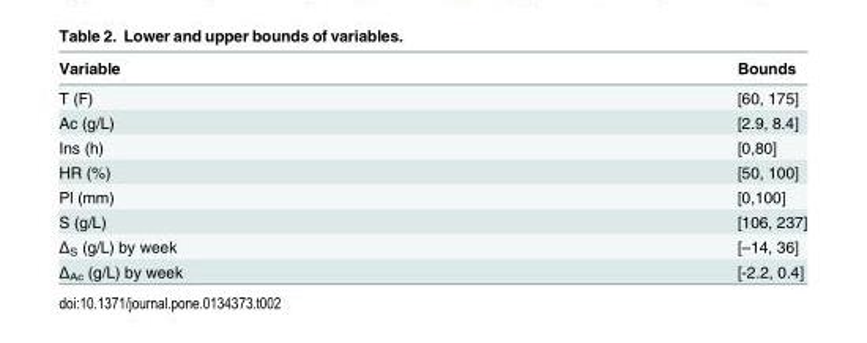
<table><thead><tr><td>Variable</td><td>Bounds</td></tr></thead><tbody><tr><td>T (F)</td><td>[60, 175]</td></tr><tr><td>Ac (g/L)</td><td>[2.9, 8.4]</td></tr><tr><td>Ins (h)</td><td>[0,80]</td></tr><tr><td>HR (%)</td><td>[50, 100]</td></tr><tr><td>Pl (mm)</td><td>[0,100]</td></tr><tr><td>S (g/L)</td><td>[106, 237]</td></tr><tr><td>Δ<sub>S</sub> (g/L) by week</td><td>[–14, 36]</td></tr><tr><td>Δ<sub>Ac</sub> (g/L) by week</td><td>[-2.2, 0.4]</td></tr></tbody></table>